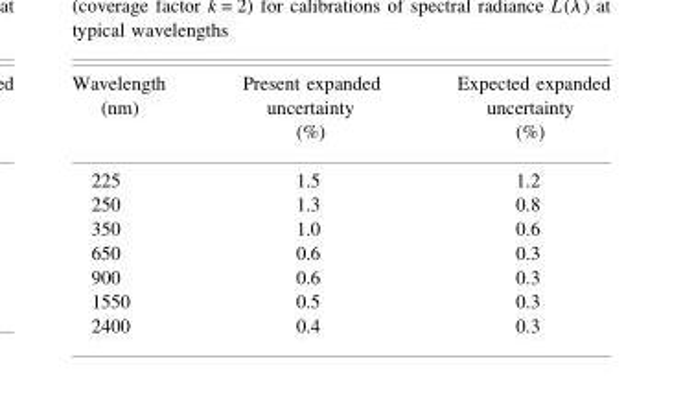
<table><thead><tr><td>Wavelength (nm)</td><td>Present expanded uncertainty (%)</td><td>Expected expanded uncertainty (%)</td></tr></thead><tbody><tr><td>225</td><td>1.5</td><td>1.2</td></tr><tr><td>250</td><td>1.3</td><td>0.8</td></tr><tr><td>350</td><td>1.0</td><td>0.6</td></tr><tr><td>650</td><td>0.6</td><td>0.3</td></tr><tr><td>900</td><td>0.6</td><td>0.3</td></tr><tr><td>1550</td><td>0.5</td><td>0.3</td></tr><tr><td>2400</td><td>0.4</td><td>0.3</td></tr></tbody></table>